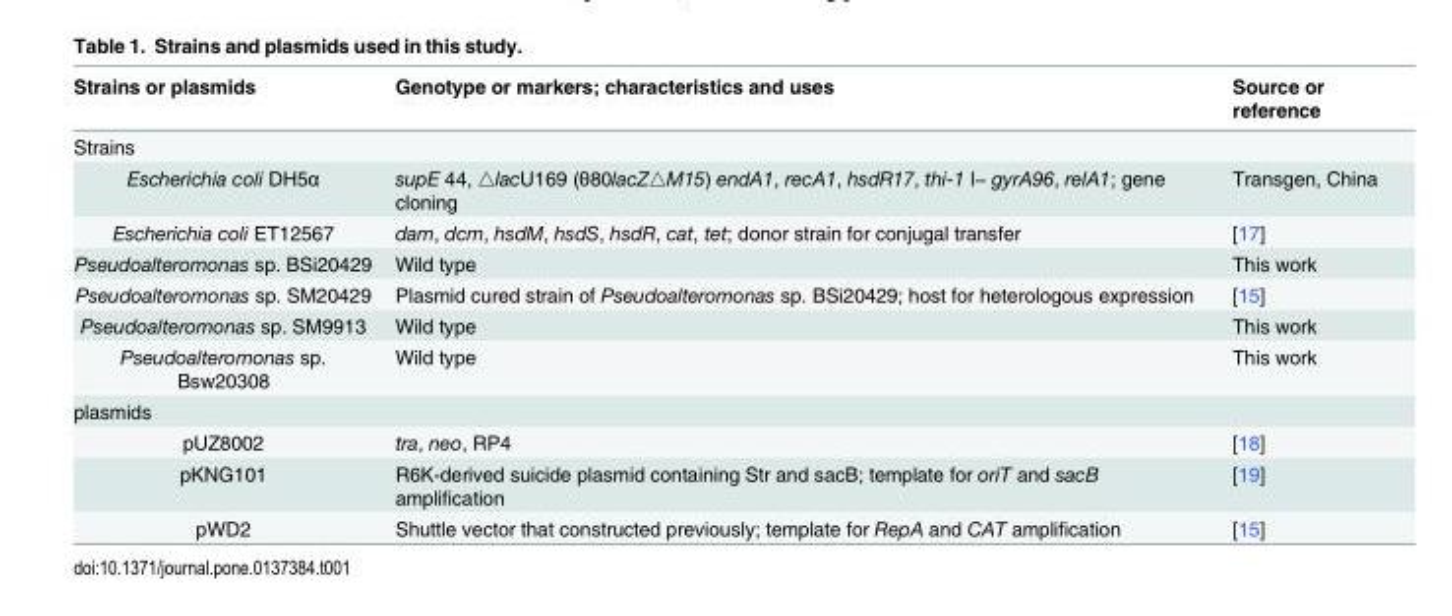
<table><thead><tr><td>Strains or plasmids</td><td>Genotype or markers; characteristics and uses</td><td>Source or reference</td></tr></thead><tbody><tr><td colspan="3">Strains</td></tr><tr><td>Escherichia coli DH5α</td><td>supE 44, △lacU169 (θ80lacZ△M15) endA1, recA1, hsdR17, thi-1 l− gyrA96, relA1; gene cloning</td><td>Transgen, China</td></tr><tr><td>Escherichia coli ET12567</td><td>dam, dcm, hsdM, hsdS, hsdR, cat, tet; donor strain for conjugal transfer</td><td>[17]</td></tr><tr><td>Pseudoalteromonas sp. BSi20429</td><td>Wild type</td><td>This work</td></tr><tr><td>Pseudoalteromonas sp. SM20429</td><td>Plasmid cured strain of Pseudoalteromonas sp. BSi20429; host for heterologous expression</td><td>[15]</td></tr><tr><td>Pseudoalteromonas sp. SM9913</td><td>Wild type</td><td>This work</td></tr><tr><td>Pseudoalteromonas sp. Bsw20308</td><td>Wild type</td><td>This work</td></tr><tr><td colspan="3">plasmids</td></tr><tr><td>pUZ8002</td><td>tra, neo, RP4</td><td>[18]</td></tr><tr><td>pKNG101</td><td>R6K-derived suicide plasmid containing Str and sacB; template for oriT and sacB amplification</td><td>[19]</td></tr><tr><td>pWD2</td><td>Shuttle vector that constructed previously; template for RepA and CAT amplification</td><td>[15]</td></tr></tbody></table>